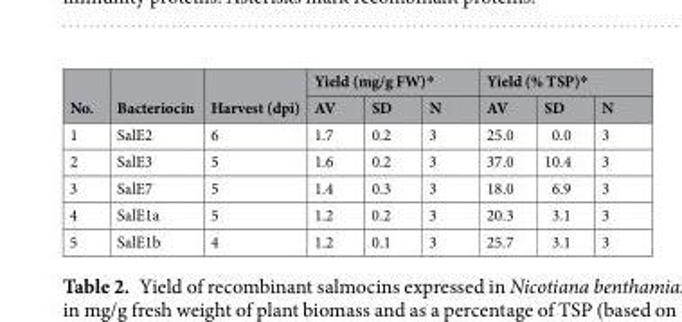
<table><thead><tr><td rowspan="2">No.</td><td rowspan="2">Bacteriocin</td><td rowspan="2">Harvest (dpi)</td><td colspan="3">Yield (mg/g FW)*</td><td colspan="3">Yield (% TSP)*</td></tr><tr><td>AV</td><td>SD</td><td>N</td><td>AV</td><td>SD</td><td>N</td></tr></thead><tbody><tr><td>1</td><td>SalE2</td><td>6</td><td>1.7</td><td>0.2</td><td>3</td><td>25.0</td><td>0.0</td><td>3</td></tr><tr><td>2</td><td>SalE3</td><td>5</td><td>1.6</td><td>0.2</td><td>3</td><td>37.0</td><td>10.4</td><td>3</td></tr><tr><td>3</td><td>SalE7</td><td>5</td><td>1.4</td><td>0.3</td><td>3</td><td>18.0</td><td>6.9</td><td>3</td></tr><tr><td>4</td><td>SalE1a</td><td>5</td><td>1.2</td><td>0.2</td><td>3</td><td>20.3</td><td>3.1</td><td>3</td></tr><tr><td>5</td><td>SalE1b</td><td>4</td><td>1.2</td><td>0.1</td><td>3</td><td>25.7</td><td>3.1</td><td>3</td></tr></tbody></table>